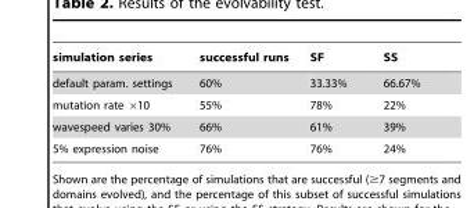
<table><thead><tr><td>simulation series</td><td>successful runs</td><td>SF</td><td>SS</td></tr></thead><tbody><tr><td>default param. settings</td><td>60%</td><td>33.33%</td><td>66.67%</td></tr><tr><td>mutation rate ×10</td><td>55%</td><td>78%</td><td>22%</td></tr><tr><td>wavespeed varies 30%</td><td>66%</td><td>61%</td><td>39%</td></tr><tr><td>5% expression noise</td><td>76%</td><td>76%</td><td>24%</td></tr></tbody></table>